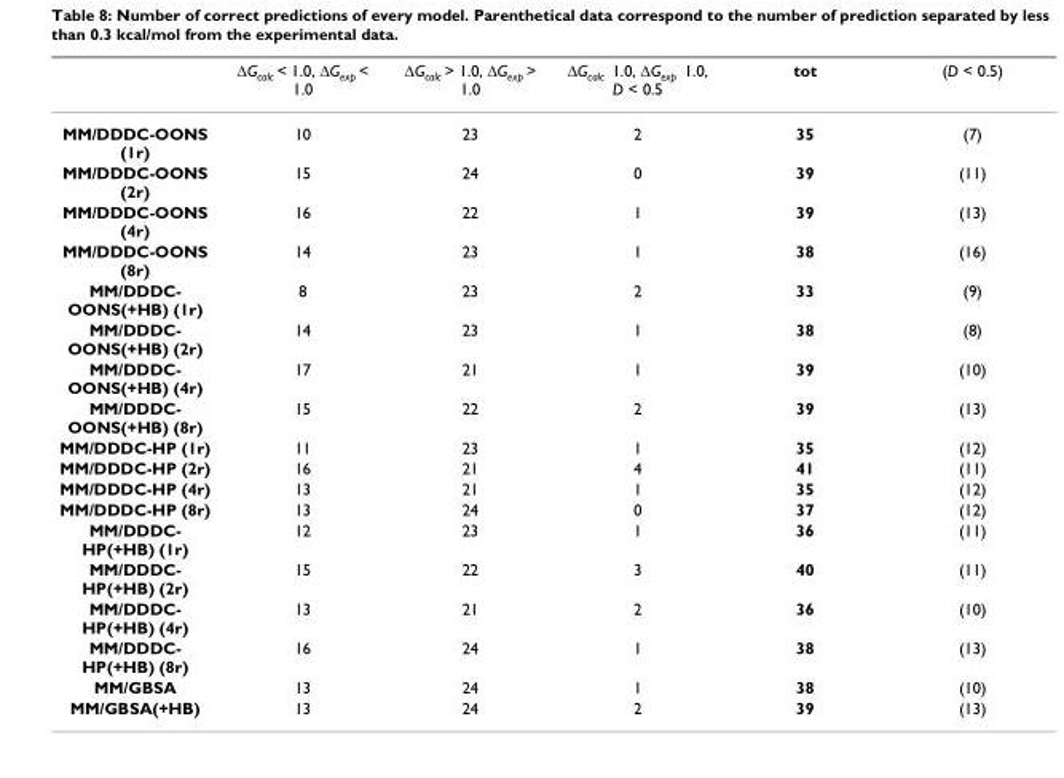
<table><thead><tr><td></td><td>ΔG<sub>calc</sub> &lt; 1.0, ΔG<sub>exp</sub> &lt; 1.0</td><td>ΔG<sub>calc</sub> &gt; 1.0, ΔG<sub>exp</sub> &gt; 1.0</td><td>ΔGcalc 1.0, ΔGexp 1.0, D &lt; 0.5</td><td>tot</td><td>(D &lt; 0.5)</td></tr></thead><tbody><tr><td>MM/DDDC-OONS (1r)</td><td>10</td><td>23</td><td>2</td><td>35</td><td>(7)</td></tr><tr><td>MM/DDDC-OONS (2r)</td><td>15</td><td>24</td><td>0</td><td>39</td><td>(11)</td></tr><tr><td>MM/DDDC-OONS (4r)</td><td>16</td><td>22</td><td>1</td><td>39</td><td>(13)</td></tr><tr><td>MM/DDDC-OONS (8r)</td><td>14</td><td>23</td><td>1</td><td>38</td><td>(16)</td></tr><tr><td>MM/DDDC- OONS(+HB) (1r)</td><td>8</td><td>23</td><td>2</td><td>33</td><td>(9)</td></tr><tr><td>MM/DDDC- OONS(+HB) (2r)</td><td>14</td><td>23</td><td>1</td><td>38</td><td>(8)</td></tr><tr><td>MM/DDDC- OONS(+HB) (4r)</td><td>17</td><td>21</td><td>1</td><td>39</td><td>(10)</td></tr><tr><td>MM/DDDC- OONS(+HB) (8r)</td><td>15</td><td>22</td><td>2</td><td>39</td><td>(13)</td></tr><tr><td>MM/DDDC-HP (1r)</td><td>11</td><td>23</td><td>1</td><td>35</td><td>(12)</td></tr><tr><td>MM/DDDC-HP (2r)</td><td>16</td><td>21</td><td>4</td><td>41</td><td>(11)</td></tr><tr><td>MM/DDDC-HP (4r)</td><td>13</td><td>21</td><td>1</td><td>35</td><td>(12)</td></tr><tr><td>MM/DDDC-HP (8r)</td><td>13</td><td>24</td><td>0</td><td>37</td><td>(12)</td></tr><tr><td>MM/DDDC- HP(+HB) (1r)</td><td>12</td><td>23</td><td>1</td><td>36</td><td>(11)</td></tr><tr><td>MM/DDDC- HP(+HB) (2r)</td><td>15</td><td>22</td><td>3</td><td>40</td><td>(11)</td></tr><tr><td>MM/DDDC- HP(+HB) (4r)</td><td>13</td><td>21</td><td>2</td><td>36</td><td>(10)</td></tr><tr><td>MM/DDDC- HP(+HB) (8r)</td><td>16</td><td>24</td><td>1</td><td>38</td><td>(13)</td></tr><tr><td>MM/GBSA</td><td>13</td><td>24</td><td>1</td><td>38</td><td>(10)</td></tr><tr><td>MM/GBSA(+HB)</td><td>13</td><td>24</td><td>2</td><td>39</td><td>(13)</td></tr></tbody></table>